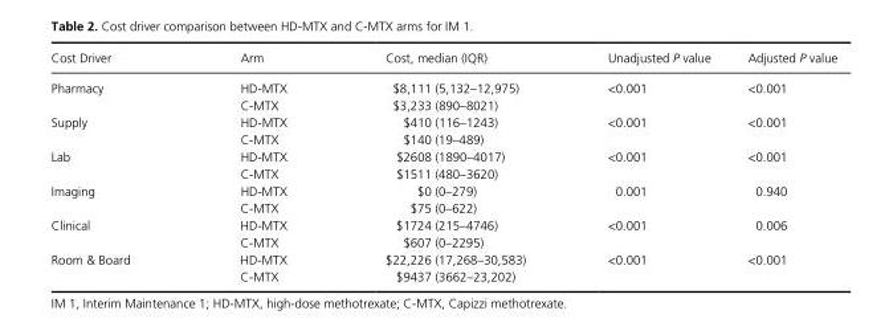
<table><thead><tr><td>Cost Driver</td><td>Arm</td><td>Cost, median (IQR)</td><td>Unadjusted P value</td><td>Adjusted P value</td></tr></thead><tbody><tr><td rowspan="2">Pharmacy</td><td>HD- MTX</td><td>$8,111 (5,132–12,975)</td><td rowspan="2">&lt;0.001</td><td rowspan="2">&lt;0.001</td></tr><tr><td>C- MTX</td><td>$3,233 (890–8021)</td></tr><tr><td rowspan="2">Supply</td><td>HD- MTX</td><td>$410 (116–1243)</td><td rowspan="2">&lt;0.001</td><td rowspan="2">&lt;0.001</td></tr><tr><td>C- MTX</td><td>$140 (19–489)</td></tr><tr><td rowspan="2">Lab</td><td>HD- MTX</td><td>$2608 (1890–4017)</td><td rowspan="2">&lt;0.001</td><td rowspan="2">&lt;0.001</td></tr><tr><td>C- MTX</td><td>$1511 (480–3620)</td></tr><tr><td rowspan="2">Imaging</td><td>HD- MTX</td><td>$0 (0–279)</td><td rowspan="2">0.001</td><td rowspan="2">0.940</td></tr><tr><td>C- MTX</td><td>$75 (0–622)</td></tr><tr><td rowspan="2">Clinical</td><td>HD- MTX</td><td>$1724 (215–4746)</td><td rowspan="2">&lt;0.001</td><td rowspan="2">0.006</td></tr><tr><td>C- MTX</td><td>$607 (0–2295)</td></tr><tr><td rowspan="2">Room &amp; Board</td><td>HD- MTX</td><td>$22,226 (17,268–30,583)</td><td rowspan="2">&lt;0.001</td><td rowspan="2">&lt;0.001</td></tr><tr><td>C- MTX</td><td>$9437 (3662–23,202)</td></tr></tbody></table>